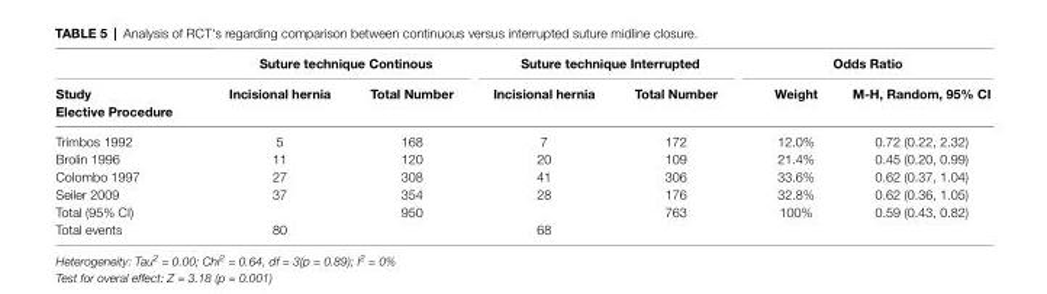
<table><thead><tr><td rowspan="2">study elective Procedure</td><td colspan="2">suture technique Continous</td><td colspan="2">suture technique interrupted</td><td colspan="2">odds Ratio</td></tr><tr><td>incisional hernia</td><td>Total number</td><td>incisional hernia</td><td>Total number</td><td>weight</td><td>M-h, Random, 95% Ci</td></tr></thead><tbody><tr><td>Trimbos 1992</td><td>5</td><td>168</td><td>7</td><td>172</td><td>12.0%</td><td>0.72 (0.22, 2.32)</td></tr><tr><td>Brolin 1996</td><td>11</td><td>120</td><td>20</td><td>109</td><td>21.4%</td><td>0.45 (0.20, 0.99)</td></tr><tr><td>Colombo 1997</td><td>27</td><td>308</td><td>41</td><td>306</td><td>33.6%</td><td>0.62 (0.37, 1.04)</td></tr><tr><td>Seiler 2009</td><td>37</td><td>354</td><td>28</td><td>176</td><td>32.8%</td><td>0.62 (0.36, 1.05)</td></tr><tr><td>Total (95% CI)</td><td></td><td>950</td><td></td><td>763</td><td>100%</td><td>0.59 (0.43, 0.82)</td></tr><tr><td>Total events</td><td>80</td><td></td><td>68</td><td></td><td></td><td></td></tr></tbody></table>